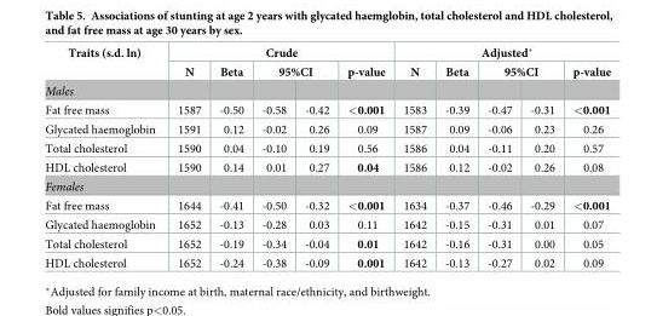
<table><thead><tr><td rowspan="3">Traits (s.d. ln) Males</td><td colspan="5">Crude</td><td colspan="5">Adjusted*</td></tr><tr><td rowspan="2">N</td><td rowspan="2">Beta</td><td colspan="2">95%CI</td><td rowspan="2">p-value</td><td rowspan="2">N</td><td rowspan="2">Beta</td><td colspan="2">95%CI</td><td rowspan="2">p-value</td></tr><tr><td></td><td></td><td></td><td></td></tr></thead><tbody><tr><td>Fat free mass</td><td>1587</td><td>-0.50</td><td>-0.58</td><td>-0.42</td><td>&lt;0.001</td><td>1583</td><td>-0.39</td><td>-0.47</td><td>-0.31</td><td>&lt;0.001</td></tr><tr><td>Glycated haemoglobin</td><td>1591</td><td>0.12</td><td>-0.02</td><td>0.26</td><td>0.09</td><td>1587</td><td>0.09</td><td>-0.06</td><td>0.23</td><td>0.26</td></tr><tr><td>Total cholesterol</td><td>1590</td><td>0.04</td><td>-0.10</td><td>0.19</td><td>0.56</td><td>1586</td><td>0.04</td><td>-0.11</td><td>0.20</td><td>0.57</td></tr><tr><td>HDL cholesterol</td><td>1590</td><td>0.14</td><td>0.01</td><td>0.27</td><td>0.04</td><td>1586</td><td>0.12</td><td>-0.02</td><td>0.26</td><td>0.08</td></tr><tr><td colspan="11">Females</td></tr><tr><td>Fat free mass</td><td>1644</td><td>-0.41</td><td>-0.50</td><td>-0.32</td><td>&lt;0.001</td><td>1634</td><td>-0.37</td><td>-0.46</td><td>-0.29</td><td>&lt;0.001</td></tr><tr><td>Glycated haemoglobin</td><td>1652</td><td>-0.13</td><td>-0.28</td><td>0.03</td><td>0.11</td><td>1642</td><td>-0.15</td><td>-0.31</td><td>0.01</td><td>0.07</td></tr><tr><td>Total cholesterol</td><td>1652</td><td>-0.19</td><td>-0.34</td><td>-0.04</td><td>0.01</td><td>1642</td><td>-0.16</td><td>-0.31</td><td>0.00</td><td>0.05</td></tr><tr><td>HDL cholesterol</td><td>1652</td><td>-0.24</td><td>-0.38</td><td>-0.09</td><td>0.001</td><td>1642</td><td>-0.13</td><td>-0.27</td><td>0.02</td><td>0.09</td></tr></tbody></table>